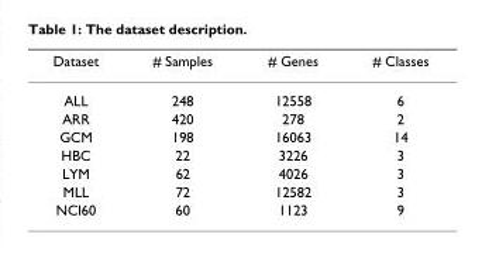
<table><thead><tr><td>Dataset</td><td># Samples</td><td># Genes</td><td># Classes</td></tr></thead><tbody><tr><td>ALL</td><td>248</td><td>12558</td><td>6</td></tr><tr><td>ARR</td><td>420</td><td>278</td><td>2</td></tr><tr><td>GCM</td><td>198</td><td>16063</td><td>14</td></tr><tr><td>HBC</td><td>22</td><td>3226</td><td>3</td></tr><tr><td>LYM</td><td>62</td><td>4026</td><td>3</td></tr><tr><td>MLL</td><td>72</td><td>12582</td><td>3</td></tr><tr><td>NCI60</td><td>60</td><td>1123</td><td>9</td></tr></tbody></table>